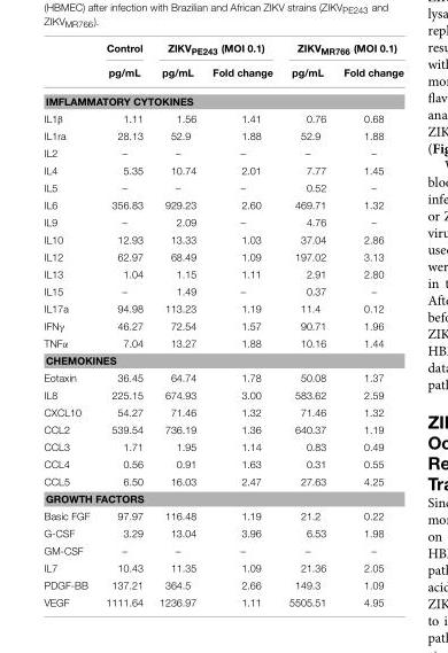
<table><thead><tr><td rowspan="2"></td><td rowspan="2">Control pg/mL</td><td colspan="2">ZIKV<sub>PE243</sub> (MOI 0.1)</td><td colspan="2">ZIKV<sub>MR766</sub> (MOI 0.1)</td></tr><tr><td>pg/mL</td><td>Fold change</td><td>pg/mL</td><td>Fold change</td></tr></thead><tbody><tr><td colspan="6">IMFLAMMATORY CYTOKINES</td></tr><tr><td>IL1β</td><td>1.11</td><td>1.56</td><td>1.41</td><td>0.76</td><td>0.68</td></tr><tr><td>IL1ra</td><td>28.13</td><td>52.9</td><td>1.88</td><td>52.9</td><td>1.88</td></tr><tr><td>IL2</td><td>–</td><td>–</td><td>–</td><td>–</td><td>–</td></tr><tr><td>IL4</td><td>5.35</td><td>10.74</td><td>2.01</td><td>7.77</td><td>1.45</td></tr><tr><td>IL5</td><td>–</td><td>–</td><td>–</td><td>0.52</td><td>–</td></tr><tr><td>IL6</td><td>356.83</td><td>929.23</td><td>2.60</td><td>469.71</td><td>1.32</td></tr><tr><td>IL9</td><td>–</td><td>2.09</td><td>–</td><td>4.76</td><td>–</td></tr><tr><td>IL10</td><td>12.93</td><td>13.33</td><td>1.03</td><td>37.04</td><td>2.86</td></tr><tr><td>IL12</td><td>62.97</td><td>68.49</td><td>1.09</td><td>197.02</td><td>3.13</td></tr><tr><td>IL13</td><td>1.04</td><td>1.15</td><td>1.11</td><td>2.91</td><td>2.80</td></tr><tr><td>IL15</td><td>–</td><td>1.49</td><td>–</td><td>0.37</td><td>–</td></tr><tr><td>IL17a</td><td>94.98</td><td>113.23</td><td>1.19</td><td>11.4</td><td>0.12</td></tr><tr><td>IFNγ</td><td>46.27</td><td>72.54</td><td>1.57</td><td>90.71</td><td>1.96</td></tr><tr><td>TNFα</td><td>7.04</td><td>13.27</td><td>1.88</td><td>10.16</td><td>1.44</td></tr><tr><td colspan="6">CHEMOKINES</td></tr><tr><td>Eotaxin</td><td>36.45</td><td>64.74</td><td>1.78</td><td>50.08</td><td>1.37</td></tr><tr><td>IL8</td><td>225.15</td><td>674.93</td><td>3.00</td><td>583.62</td><td>2.59</td></tr><tr><td>CXCL10</td><td>54.27</td><td>71.46</td><td>1.32</td><td>71.46</td><td>1.32</td></tr><tr><td>CCL2</td><td>539.54</td><td>736.19</td><td>1.36</td><td>640.37</td><td>1.19</td></tr><tr><td>CCL3</td><td>1.71</td><td>1.95</td><td>1.14</td><td>0.83</td><td>0.49</td></tr><tr><td>CCL4</td><td>0.56</td><td>0.91</td><td>1.63</td><td>0.31</td><td>0.55</td></tr><tr><td>CCL5</td><td>6.50</td><td>16.03</td><td>2.47</td><td>27.63</td><td>4.25</td></tr><tr><td colspan="6">GROWTH FACTORS</td></tr><tr><td>Basic FGF</td><td>97.97</td><td>116.48</td><td>1.19</td><td>21.2</td><td>0.22</td></tr><tr><td>G-CSF</td><td>3.29</td><td>13.04</td><td>3.96</td><td>6.53</td><td>1.98</td></tr><tr><td>GM-CSF</td><td>–</td><td>–</td><td>–</td><td>–</td><td>–</td></tr><tr><td>IL7</td><td>10.43</td><td>11.35</td><td>1.09</td><td>21.36</td><td>2.05</td></tr><tr><td>PDGF-BB</td><td>137.21</td><td>364.5</td><td>2.66</td><td>149.3</td><td>1.09</td></tr><tr><td>VEGF</td><td>1111.64</td><td>1236.97</td><td>1.11</td><td>5505.51</td><td>4.95</td></tr></tbody></table>